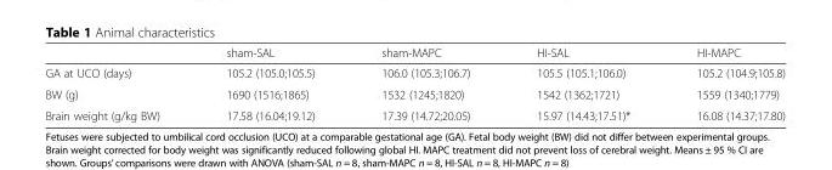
<table><thead><tr><td></td><td>sham-SAL</td><td>sham-MAPC</td><td>HI-SAL</td><td>HI-MAPC</td></tr></thead><tbody><tr><td>GA at UCO (days)</td><td>105.2 (105.0;105.5)</td><td>106.0 (105.3;106.7)</td><td>105.5 (105.1;106.0)</td><td>105.2 (104.9;105.8)</td></tr><tr><td>BW (g)</td><td>1690 (1516;1865)</td><td>1532 (1245;1820)</td><td>1542 (1362;1721)</td><td>1559 (1340;1779)</td></tr><tr><td>Brain weight (g/kg BW)</td><td>17.58 (16.04;19.12)</td><td>17.39 (14.72;20.05)</td><td>15.97 (14.43;17.51)*</td><td>16.08 (14.37;17.80)</td></tr></tbody></table>